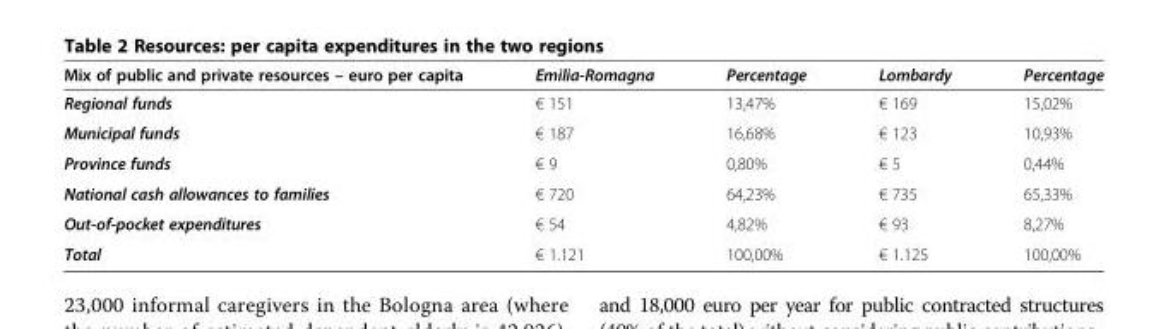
<table><thead><tr><td>Mix of public and private resources – euro per capita</td><td>Emilia-Romagna</td><td>Percentage</td><td>Lombardy</td><td>Percentage</td></tr></thead><tbody><tr><td>Regional funds</td><td>€ 151</td><td>13,47%</td><td>€ 169</td><td>15,02%</td></tr><tr><td>Municipal funds</td><td>€ 187</td><td>16,68%</td><td>€ 123</td><td>10,93%</td></tr><tr><td>Province funds</td><td>€ 9</td><td>0,80%</td><td>€ 5</td><td>0,44%</td></tr><tr><td>National cash allowances to families</td><td>€ 720</td><td>64,23%</td><td>€ 735</td><td>65,33%</td></tr><tr><td>Out-of-pocket expenditures</td><td>€ 54</td><td>4,82%</td><td>€ 93</td><td>8,27%</td></tr><tr><td>Total</td><td>€ 1.121</td><td>100,00%</td><td>€ 1.125</td><td>100,00%</td></tr></tbody></table>